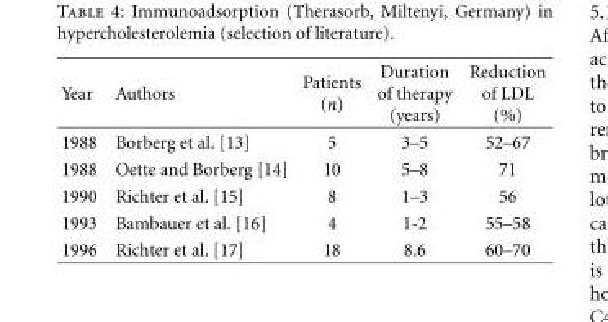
<table><thead><tr><td>Year</td><td>Authors</td><td>Patients (n)</td><td>Duration of therapy (years)</td><td>Reduction of LDL (%)</td></tr></thead><tbody><tr><td>1988</td><td>Borberg et al. [13]</td><td>5</td><td>3–5</td><td>52–67</td></tr><tr><td>1988</td><td>Oette and Borberg [14]</td><td>10</td><td>5–8</td><td>71</td></tr><tr><td>1990</td><td>Richter et al. [15]</td><td>8</td><td>1–3</td><td>56</td></tr><tr><td>1993</td><td>Bambauer et al. [16]</td><td>4</td><td>1-2</td><td>55–58</td></tr><tr><td>1996</td><td>Richter et al. [17]</td><td>18</td><td>8.6</td><td>60–70</td></tr></tbody></table>